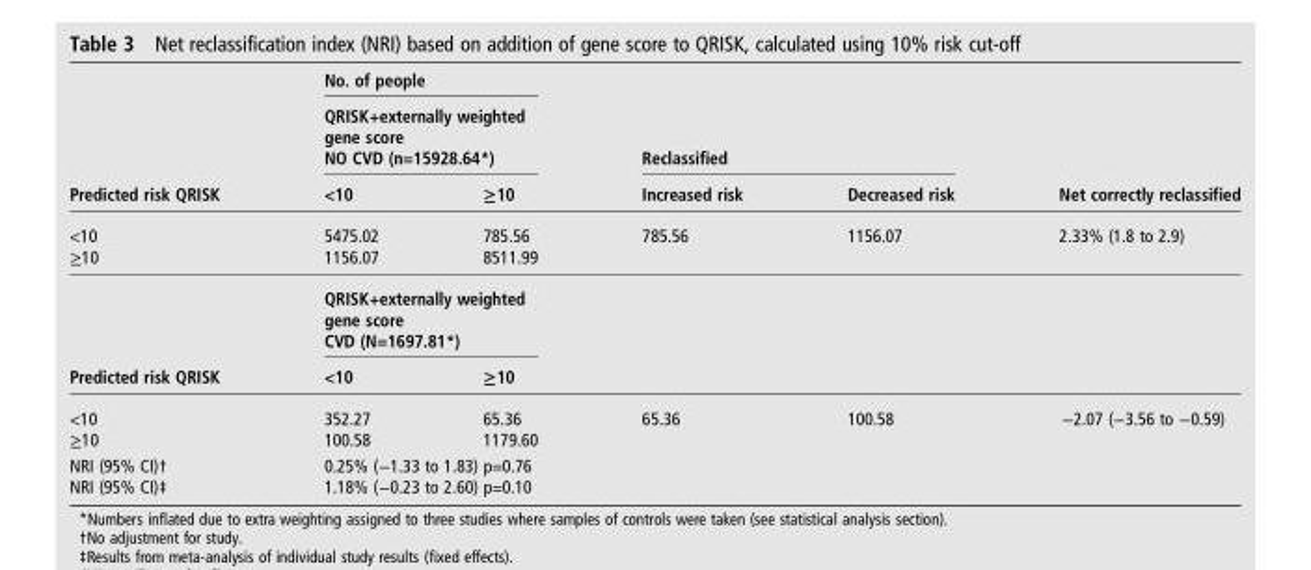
<table><thead><tr><td rowspan="3">Predicted risk QRISK</td><td rowspan="2" colspan="2">No. of people QRISK+externally weighted gene score NO CVD (n=15928.64*)</td><td></td><td></td><td rowspan="3">Net correctly reclassified</td></tr><tr><td colspan="2">Reclassified</td></tr><tr><td>&lt;10</td><td>≥10</td><td>Increased risk</td><td>Decreased risk</td></tr></thead><tbody><tr><td rowspan="2">&lt;10 ≥10</td><td>5475.02 1156.07</td><td>785.56 8511.99</td><td>785.56</td><td>1156.07</td><td>2.33% (1.8 to 2.9)</td></tr><tr><td colspan="2">QRISK+externally weighted gene score CVD (N=1697.81*)</td><td></td><td></td><td></td></tr><tr><td>Predicted risk QRISK</td><td>&lt;10</td><td>≥10</td><td></td><td></td><td></td></tr><tr><td>&lt;10 ≥10</td><td>352.27 100.58</td><td>65.36 1179.60</td><td>65.36</td><td>100.58</td><td>−2.07 (−3.56 to −0.59)</td></tr><tr><td>NRI (95% CI)† NRI (95% CI)‡</td><td colspan="2">0.25% (−1.33 to 1.83) p=0.76 1.18% (−0.23 to 2.60) p=0.10</td><td></td><td></td><td></td></tr></tbody></table>